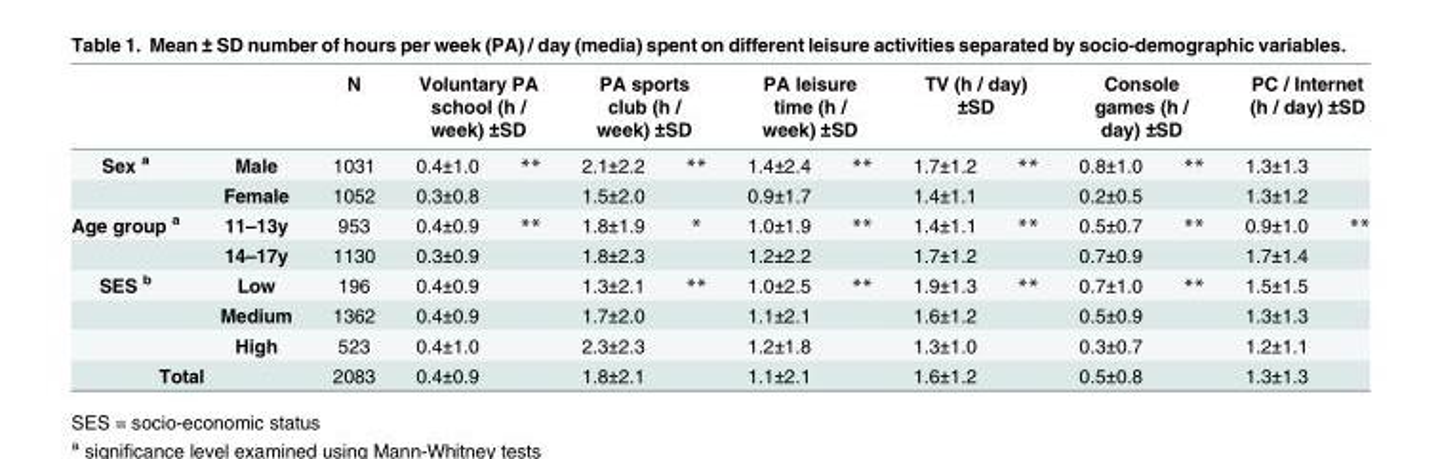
<table><thead><tr><td rowspan="2">Sex <sup>a</sup></td><td rowspan="2">Male</td><td rowspan="2">N 1031</td><td colspan="2">Voluntary PA school (h / week) ±SD</td><td colspan="2">PA sports club (h / week) ±SD</td><td colspan="2">PA leisure time (h / week) ±SD</td><td colspan="2">TV (h / day) ±SD</td><td colspan="2">Console games (h / day) ±SD</td><td colspan="2">PC / Internet (h / day) ±SD</td></tr><tr><td>0.4±1.0</td><td>**</td><td>2.1±2.2</td><td>**</td><td>1.4±2.4</td><td>**</td><td>1.7±1.2</td><td>**</td><td>0.8±1.0</td><td>**</td><td>1.3±1.3</td><td></td></tr></thead><tbody><tr><td></td><td>Female</td><td>1052</td><td>0.3±0.8</td><td></td><td>1.5±2.0</td><td></td><td>0.9±1.7</td><td></td><td>1.4±1.1</td><td></td><td>0.2±0.5</td><td></td><td>1.3±1.2</td><td></td></tr><tr><td rowspan="2">Age group <sup>a</sup></td><td>11–13y</td><td>953</td><td>0.4±0.9</td><td>**</td><td>1.8±1.9</td><td>*</td><td>1.0±1.9</td><td>**</td><td>1.4±1.1</td><td>**</td><td>0.5±0.7</td><td>**</td><td>0.9±1.0</td><td>**</td></tr><tr><td>14–17y</td><td>1130</td><td>0.3±0.9</td><td></td><td>1.8±2.3</td><td></td><td>1.2±2.2</td><td></td><td>1.7±1.2</td><td></td><td>0.7±0.9</td><td></td><td>1.7±1.4</td><td></td></tr><tr><td rowspan="3">SES <sup>b</sup></td><td>Low</td><td>196</td><td>0.4±0.9</td><td></td><td>1.3±2.1</td><td>**</td><td>1.0±2.5</td><td>**</td><td>1.9±1.3</td><td>**</td><td>0.7±1.0</td><td>**</td><td>1.5±1.5</td><td></td></tr><tr><td>Medium</td><td>1362</td><td>0.4±0.9</td><td></td><td>1.7±2.0</td><td></td><td>1.1±2.1</td><td></td><td>1.6±1.2</td><td></td><td>0.5±0.9</td><td></td><td>1.3±1.3</td><td></td></tr><tr><td>High</td><td>523</td><td>0.4±1.0</td><td></td><td>2.3±2.3</td><td></td><td>1.2±1.8</td><td></td><td>1.3±1.0</td><td></td><td>0.3±0.7</td><td></td><td>1.2±1.1</td><td></td></tr><tr><td colspan="2">Total</td><td>2083</td><td>0.4±0.9</td><td></td><td>1.8±2.1</td><td></td><td>1.1±2.1</td><td></td><td>1.6±1.2</td><td></td><td>0.5±0.8</td><td></td><td>1.3±1.3</td><td></td></tr></tbody></table>